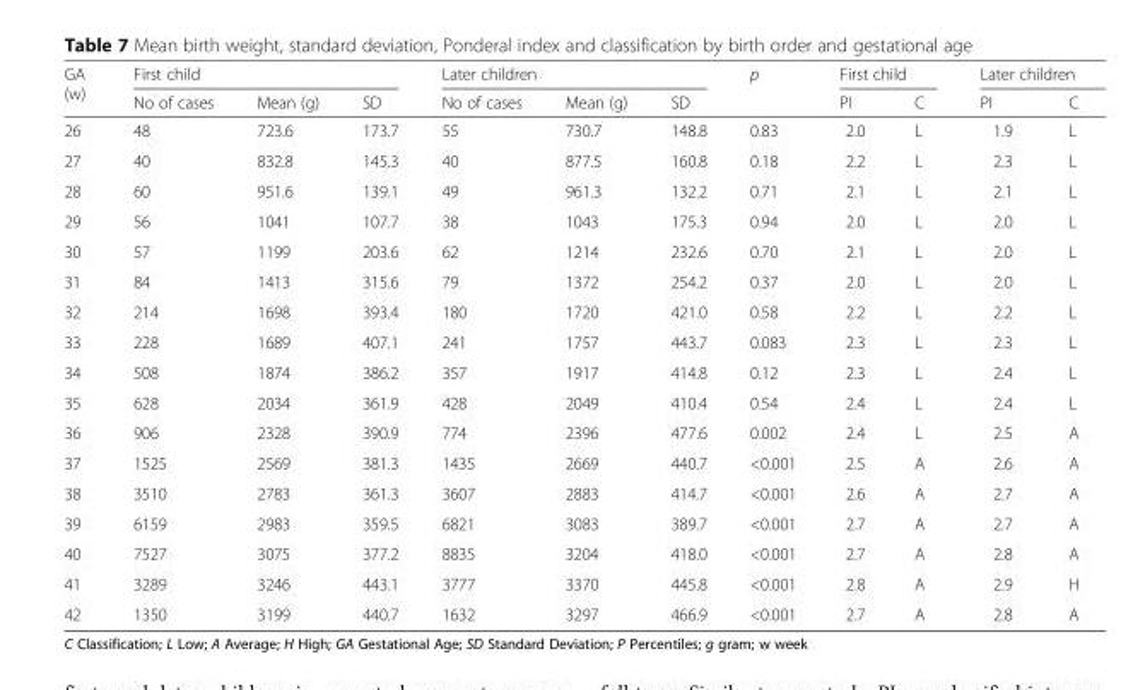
<table><thead><tr><td rowspan="2">GA (w)</td><td colspan="3">First child</td><td colspan="3">Later children</td><td rowspan="2">p</td><td colspan="2">First child</td><td colspan="2">Later children</td></tr><tr><td>No of cases</td><td>Mean (g)</td><td>SD</td><td>No of cases</td><td>Mean (g)</td><td>SD</td><td>PI</td><td>C</td><td>PI</td><td>C</td></tr></thead><tbody><tr><td>26</td><td>48</td><td>723.6</td><td>173.7</td><td>55</td><td>730.7</td><td>148.8</td><td>0.83</td><td>2.0</td><td>L</td><td>1.9</td><td>L</td></tr><tr><td>27</td><td>40</td><td>832.8</td><td>145.3</td><td>40</td><td>877.5</td><td>160.8</td><td>0.18</td><td>2.2</td><td>L</td><td>2.3</td><td>L</td></tr><tr><td>28</td><td>60</td><td>951.6</td><td>139.1</td><td>49</td><td>961.3</td><td>132.2</td><td>0.71</td><td>2.1</td><td>L</td><td>2.1</td><td>L</td></tr><tr><td>29</td><td>56</td><td>1041</td><td>107.7</td><td>38</td><td>1043</td><td>175.3</td><td>0.94</td><td>2.0</td><td>L</td><td>2.0</td><td>L</td></tr><tr><td>30</td><td>57</td><td>1199</td><td>203.6</td><td>62</td><td>1214</td><td>232.6</td><td>0.70</td><td>2.1</td><td>L</td><td>2.0</td><td>L</td></tr><tr><td>31</td><td>84</td><td>1413</td><td>315.6</td><td>79</td><td>1372</td><td>254.2</td><td>0.37</td><td>2.0</td><td>L</td><td>2.0</td><td>L</td></tr><tr><td>32</td><td>214</td><td>1698</td><td>393.4</td><td>180</td><td>1720</td><td>421.0</td><td>0.58</td><td>2.2</td><td>L</td><td>2.2</td><td>L</td></tr><tr><td>33</td><td>228</td><td>1689</td><td>407.1</td><td>241</td><td>1757</td><td>443.7</td><td>0.083</td><td>2.3</td><td>L</td><td>2.3</td><td>L</td></tr><tr><td>34</td><td>508</td><td>1874</td><td>386.2</td><td>357</td><td>1917</td><td>414.8</td><td>0.12</td><td>2.3</td><td>L</td><td>2.4</td><td>L</td></tr><tr><td>35</td><td>628</td><td>2034</td><td>361.9</td><td>428</td><td>2049</td><td>410.4</td><td>0.54</td><td>2.4</td><td>L</td><td>2.4</td><td>L</td></tr><tr><td>36</td><td>906</td><td>2328</td><td>390.9</td><td>774</td><td>2396</td><td>477.6</td><td>0.002</td><td>2.4</td><td>L</td><td>2.5</td><td>A</td></tr><tr><td>37</td><td>1525</td><td>2569</td><td>381.3</td><td>1435</td><td>2669</td><td>440.7</td><td>&lt;0.001</td><td>2.5</td><td>A</td><td>2.6</td><td>A</td></tr><tr><td>38</td><td>3510</td><td>2783</td><td>361.3</td><td>3607</td><td>2883</td><td>414.7</td><td>&lt;0.001</td><td>2.6</td><td>A</td><td>2.7</td><td>A</td></tr><tr><td>39</td><td>6159</td><td>2983</td><td>359.5</td><td>6821</td><td>3083</td><td>389.7</td><td>&lt;0.001</td><td>2.7</td><td>A</td><td>2.7</td><td>A</td></tr><tr><td>40</td><td>7527</td><td>3075</td><td>377.2</td><td>8835</td><td>3204</td><td>418.0</td><td>&lt;0.001</td><td>2.7</td><td>A</td><td>2.8</td><td>A</td></tr><tr><td>41</td><td>3289</td><td>3246</td><td>443.1</td><td>3777</td><td>3370</td><td>445.8</td><td>&lt;0.001</td><td>2.8</td><td>A</td><td>2.9</td><td>H</td></tr><tr><td>42</td><td>1350</td><td>3199</td><td>440.7</td><td>1632</td><td>3297</td><td>466.9</td><td>&lt;0.001</td><td>2.7</td><td>A</td><td>2.8</td><td>A</td></tr></tbody></table>